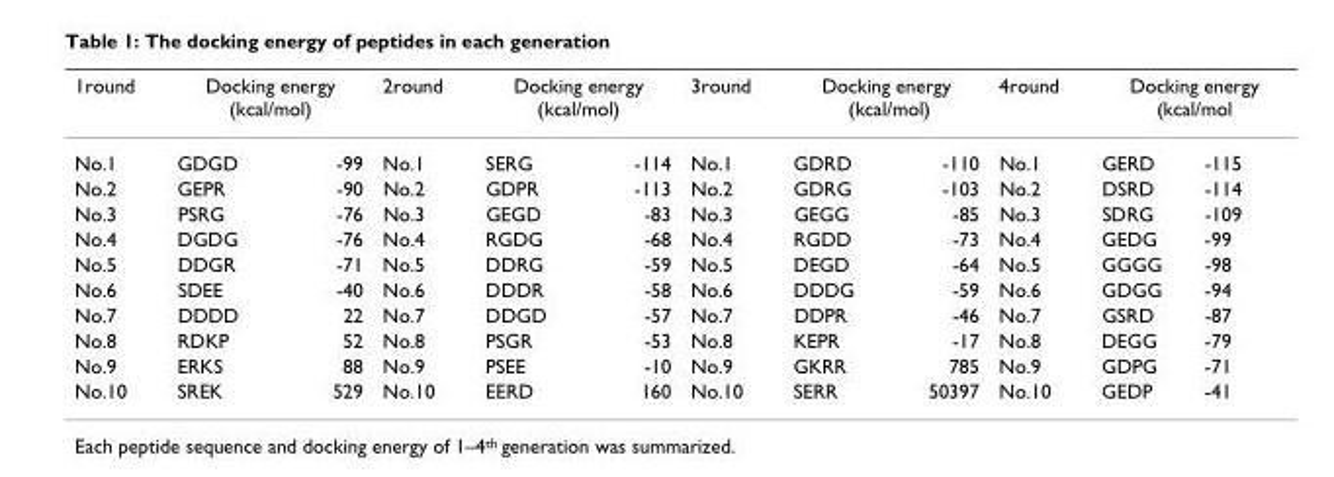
<table><thead><tr><td rowspan="2">1round No.1</td><td colspan="2">Docking energy (kcal/mol)</td><td rowspan="2">2round No.1</td><td colspan="2">Docking energy (kcal/mol)</td><td rowspan="2">3round No.1</td><td colspan="2">Docking energy (kcal/mol)</td><td rowspan="2">4round No.1</td><td colspan="2">Docking energy (kcal/mol</td></tr><tr><td>GDGD</td><td>-99</td><td>SERG</td><td>-114</td><td>GDRD</td><td>-110</td><td>GERD</td><td>-115</td></tr></thead><tbody><tr><td>No.2</td><td>GEPR</td><td>-90</td><td>No.2</td><td>GDPR</td><td>-113</td><td>No.2</td><td>GDRG</td><td>-103</td><td>No.2</td><td>DSRD</td><td>-114</td></tr><tr><td>No.3</td><td>PSRG</td><td>-76</td><td>No.3</td><td>GEGD</td><td>-83</td><td>No.3</td><td>GEGG</td><td>-85</td><td>No.3</td><td>SDRG</td><td>-109</td></tr><tr><td>No.4</td><td>DGDG</td><td>-76</td><td>No.4</td><td>RGDG</td><td>-68</td><td>No.4</td><td>RGDD</td><td>-73</td><td>No.4</td><td>GEDG</td><td>-99</td></tr><tr><td>No.5</td><td>DDGR</td><td>-71</td><td>No.5</td><td>DDRG</td><td>-59</td><td>No.5</td><td>DEGD</td><td>-64</td><td>No.5</td><td>GGGG</td><td>-98</td></tr><tr><td>No.6</td><td>SDEE</td><td>-40</td><td>No.6</td><td>DDDR</td><td>-58</td><td>No.6</td><td>DDDG</td><td>-59</td><td>No.6</td><td>GDGG</td><td>-94</td></tr><tr><td>No.7</td><td>DDDD</td><td>22</td><td>No.7</td><td>DDGD</td><td>-57</td><td>No.7</td><td>DDPR</td><td>-46</td><td>No.7</td><td>GSRD</td><td>-87</td></tr><tr><td>No.8</td><td>RDKP</td><td>52</td><td>No.8</td><td>PSGR</td><td>-53</td><td>No.8</td><td>KEPR</td><td>-17</td><td>No.8</td><td>DEGG</td><td>-79</td></tr><tr><td>No.9</td><td>ERKS</td><td>88</td><td>No.9</td><td>PSEE</td><td>-10</td><td>No.9</td><td>GKRR</td><td>785</td><td>No.9</td><td>GDPG</td><td>-71</td></tr><tr><td>No.10</td><td>SREK</td><td>529</td><td>No.10</td><td>EERD</td><td>160</td><td>No.10</td><td>SERR</td><td>50397</td><td>No.10</td><td>GEDP</td><td>-41</td></tr></tbody></table>